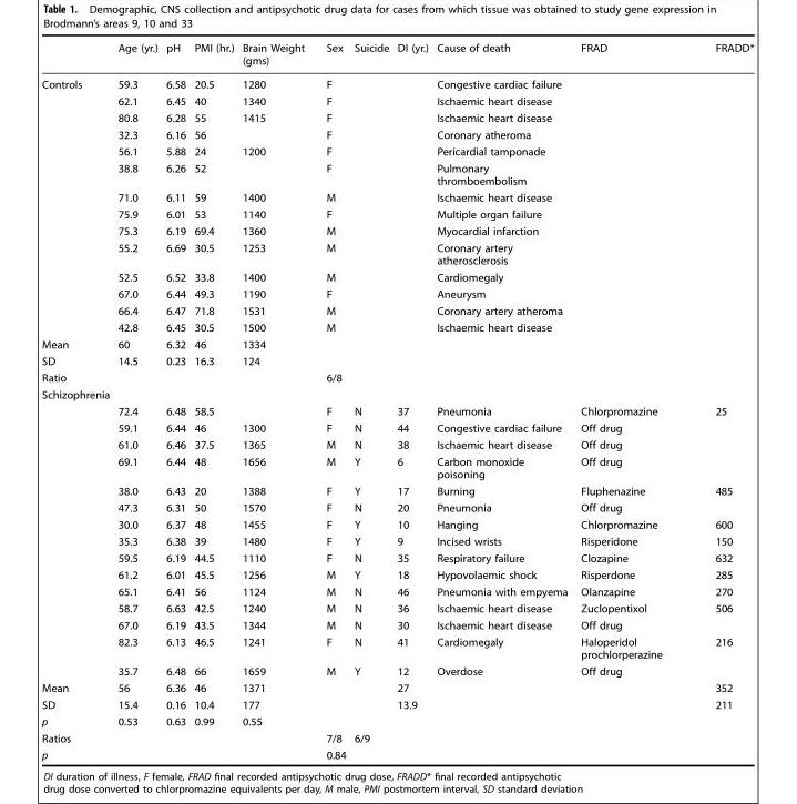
<table><thead><tr><td></td><td>Age (yr.)</td><td>pH</td><td>PMI (hr.)</td><td>Brain Weight (gms)</td><td>Sex</td><td>Suicide</td><td>DI (yr.)</td><td>Cause of death</td><td>FRAD</td><td>FRADD*</td></tr></thead><tbody><tr><td rowspan="14">Controls</td><td>59.3</td><td>6.58</td><td>20.5</td><td>1280</td><td>F</td><td></td><td></td><td>Congestive cardiac failure</td><td></td><td></td></tr><tr><td>62.1</td><td>6.45</td><td>40</td><td>1340</td><td>F</td><td></td><td></td><td>Ischaemic heart disease</td><td></td><td></td></tr><tr><td>80.8</td><td>6.28</td><td>55</td><td>1415</td><td>F</td><td></td><td></td><td>Ischaemic heart disease</td><td></td><td></td></tr><tr><td>32.3</td><td>6.16</td><td>56</td><td></td><td>F</td><td></td><td></td><td>Coronary atheroma</td><td></td><td></td></tr><tr><td>56.1</td><td>5.88</td><td>24</td><td>1200</td><td>F</td><td></td><td></td><td>Pericardial tamponade</td><td></td><td></td></tr><tr><td>38.8</td><td>6.26</td><td>52</td><td></td><td>F</td><td></td><td></td><td>Pulmonary thromboembolism</td><td></td><td></td></tr><tr><td>71.0</td><td>6.11</td><td>59</td><td>1400</td><td>M</td><td></td><td></td><td>Ischaemic heart disease</td><td></td><td></td></tr><tr><td>75.9</td><td>6.01</td><td>53</td><td>1140</td><td>F</td><td></td><td></td><td>Multiple organ failure</td><td></td><td></td></tr><tr><td>75.3</td><td>6.19</td><td>69.4</td><td>1360</td><td>M</td><td></td><td></td><td>Myocardial infarction</td><td></td><td></td></tr><tr><td>55.2</td><td>6.69</td><td>30.5</td><td>1253</td><td>M</td><td></td><td></td><td>Coronary artery atherosclerosis</td><td></td><td></td></tr><tr><td>52.5</td><td>6.52</td><td>33.8</td><td>1400</td><td>M</td><td></td><td></td><td>Cardiomegaly</td><td></td><td></td></tr><tr><td>67.0</td><td>6.44</td><td>49.3</td><td>1190</td><td>F</td><td></td><td></td><td>Aneurysm</td><td></td><td></td></tr><tr><td>66.4</td><td>6.47</td><td>71.8</td><td>1531</td><td>M</td><td></td><td></td><td>Coronary artery atheroma</td><td></td><td></td></tr><tr><td>42.8</td><td>6.45</td><td>30.5</td><td>1500</td><td>M</td><td></td><td></td><td>Ischaemic heart disease</td><td></td><td></td></tr><tr><td>Mean</td><td>60</td><td>6.32</td><td>46</td><td>1334</td><td></td><td></td><td></td><td></td><td></td><td></td></tr><tr><td>SD</td><td>14.5</td><td>0.23</td><td>16.3</td><td>124</td><td></td><td></td><td></td><td></td><td></td><td></td></tr><tr><td>Ratio</td><td></td><td></td><td></td><td></td><td>6/8</td><td></td><td></td><td></td><td></td><td></td></tr><tr><td colspan="11">Schizophrenia</td></tr><tr><td></td><td>72.4</td><td>6.48</td><td>58.5</td><td></td><td>F</td><td>N</td><td>37</td><td>Pneumonia</td><td>Chlorpromazine</td><td>25</td></tr><tr><td></td><td>59.1</td><td>6.44</td><td>46</td><td>1300</td><td>F</td><td>N</td><td>44</td><td>Congestive cardiac failure</td><td>Off drug</td><td></td></tr><tr><td></td><td>61.0</td><td>6.46</td><td>37.5</td><td>1365</td><td>M</td><td>N</td><td>38</td><td>Ischaemic heart disease</td><td>Off drug</td><td></td></tr><tr><td></td><td>69.1</td><td>6.44</td><td>48</td><td>1656</td><td>M</td><td>Y</td><td>6</td><td>Carbon monoxide poisoning</td><td>Off drug</td><td></td></tr><tr><td></td><td>38.0</td><td>6.43</td><td>20</td><td>1388</td><td>F</td><td>Y</td><td>17</td><td>Burning</td><td>Fluphenazine</td><td>485</td></tr><tr><td></td><td>47.3</td><td>6.31</td><td>50</td><td>1570</td><td>F</td><td>N</td><td>20</td><td>Pneumonia</td><td>Off drug</td><td></td></tr><tr><td></td><td>30.0</td><td>6.37</td><td>48</td><td>1455</td><td>F</td><td>Y</td><td>10</td><td>Hanging</td><td>Chlorpromazine</td><td>600</td></tr><tr><td></td><td>35.3</td><td>6.38</td><td>39</td><td>1480</td><td>F</td><td>Y</td><td>9</td><td>Incised wrists</td><td>Risperidone</td><td>150</td></tr><tr><td></td><td>59.5</td><td>6.19</td><td>44.5</td><td>1110</td><td>F</td><td>N</td><td>35</td><td>Respiratory failure</td><td>Clozapine</td><td>632</td></tr><tr><td></td><td>61.2</td><td>6.01</td><td>45.5</td><td>1256</td><td>M</td><td>Y</td><td>18</td><td>Hypovolaemic shock</td><td>Risperdone</td><td>285</td></tr><tr><td></td><td>65.1</td><td>6.41</td><td>56</td><td>1124</td><td>M</td><td>N</td><td>46</td><td>Pneumonia with empyema</td><td>Olanzapine</td><td>270</td></tr><tr><td></td><td>58.7</td><td>6.63</td><td>42.5</td><td>1240</td><td>M</td><td>N</td><td>36</td><td>Ischaemic heart disease</td><td>Zuclopentixol</td><td>506</td></tr><tr><td></td><td>67.0</td><td>6.19</td><td>43.5</td><td>1344</td><td>M</td><td>N</td><td>30</td><td>Ischaemic heart disease</td><td>Off drug</td><td></td></tr><tr><td></td><td>82.3</td><td>6.13</td><td>46.5</td><td>1241</td><td>F</td><td>N</td><td>41</td><td>Cardiomegaly</td><td>Haloperidol prochlorperazine</td><td>216</td></tr><tr><td></td><td>35.7</td><td>6.48</td><td>66</td><td>1659</td><td>M</td><td>Y</td><td>12</td><td>Overdose</td><td>Off drug</td><td></td></tr><tr><td>Mean</td><td>56</td><td>6.36</td><td>46</td><td>1371</td><td></td><td></td><td>27</td><td></td><td></td><td>352</td></tr><tr><td>SD</td><td>15.4</td><td>0.16</td><td>10.4</td><td>177</td><td></td><td></td><td>13.9</td><td></td><td></td><td>211</td></tr><tr><td>p</td><td>0.53</td><td>0.63</td><td>0.99</td><td>0.55</td><td></td><td></td><td></td><td></td><td></td><td></td></tr><tr><td>Ratios</td><td></td><td></td><td></td><td></td><td>7/8</td><td>6/9</td><td></td><td></td><td></td><td></td></tr><tr><td>p</td><td></td><td></td><td></td><td></td><td>0.84</td><td></td><td></td><td></td><td></td><td></td></tr></tbody></table>